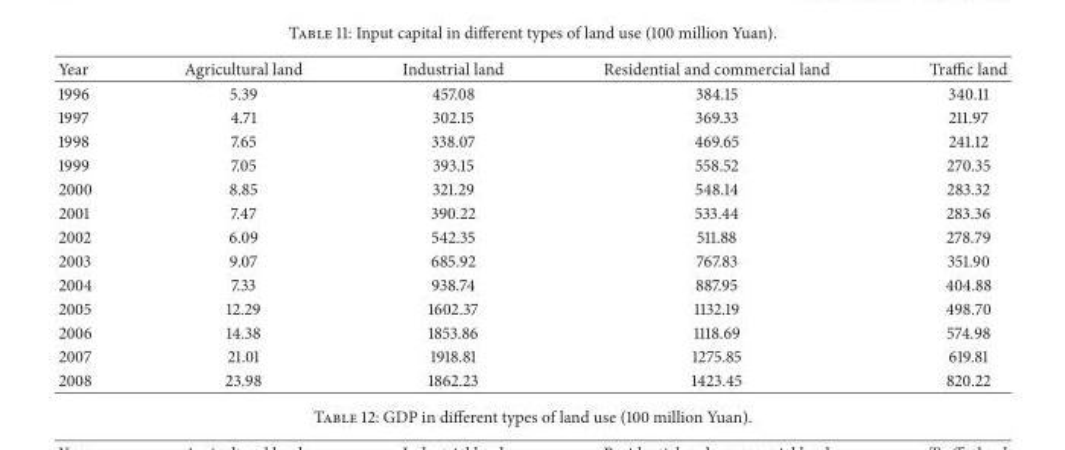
<table><thead><tr><td>Year</td><td>Agricultural land</td><td>Industrial land</td><td>Residential and commercial land</td><td>Traffic land</td></tr></thead><tbody><tr><td>1996</td><td>5.39</td><td>457.08</td><td>384.15</td><td>340.11</td></tr><tr><td>1997</td><td>4.71</td><td>302.15</td><td>369.33</td><td>211.97</td></tr><tr><td>1998</td><td>7.65</td><td>338.07</td><td>469.65</td><td>241.12</td></tr><tr><td>1999</td><td>7.05</td><td>393.15</td><td>558.52</td><td>270.35</td></tr><tr><td>2000</td><td>8.85</td><td>321.29</td><td>548.14</td><td>283.32</td></tr><tr><td>2001</td><td>7.47</td><td>390.22</td><td>533.44</td><td>283.36</td></tr><tr><td>2002</td><td>6.09</td><td>542.35</td><td>511.88</td><td>278.79</td></tr><tr><td>2003</td><td>9.07</td><td>685.92</td><td>767.83</td><td>351.90</td></tr><tr><td>2004</td><td>7.33</td><td>938.74</td><td>887.95</td><td>404.88</td></tr><tr><td>2005</td><td>12.29</td><td>1602.37</td><td>1132.19</td><td>498.70</td></tr><tr><td>2006</td><td>14.38</td><td>1853.86</td><td>1118.69</td><td>574.98</td></tr><tr><td>2007</td><td>21.01</td><td>1918.81</td><td>1275.85</td><td>619.81</td></tr><tr><td>2008</td><td>23.98</td><td>1862.23</td><td>1423.45</td><td>820.22</td></tr></tbody></table>